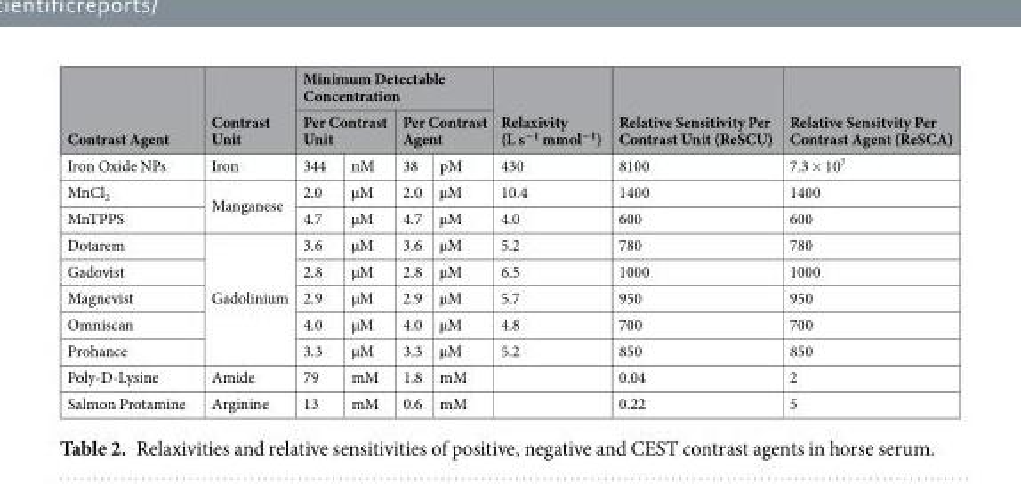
<table><thead><tr><td rowspan="3">Contrast Agent Iron Oxide NPs</td><td rowspan="3">Contrast Unit Iron</td><td colspan="4">Minimum Detectable Concentration</td><td rowspan="3">Relaxivity (L s<sup>−1</sup> mmol<sup>−1</sup>) 430</td><td rowspan="3">Relative Sensitivity Per Contrast Unit (ReSCU) 8100</td><td rowspan="3">Relative Sensitvity Per Contrast Agent (ReSCA) 7.3 × 10<sup>7</sup></td></tr><tr><td colspan="2">Per Contrast Unit</td><td colspan="2">Per Contrast Agent</td></tr><tr><td>344</td><td>nM</td><td>38</td><td>pM</td></tr></thead><tbody><tr><td>MnCl<sub>2</sub></td><td rowspan="2">Manganese</td><td>2.0</td><td>µM</td><td>2.0</td><td>µM</td><td>10.4</td><td>1400</td><td>1400</td></tr><tr><td>MnTPPS</td><td>4.7</td><td>µM</td><td>4.7</td><td>µM</td><td>4.0</td><td>600</td><td>600</td></tr><tr><td>Dotarem</td><td rowspan="5">Gadolinium</td><td>3.6</td><td>µM</td><td>3.6</td><td>µM</td><td>5.2</td><td>780</td><td>780</td></tr><tr><td>Gadovist</td><td>2.8</td><td>µM</td><td>2.8</td><td>µM</td><td>6.5</td><td>1000</td><td>1000</td></tr><tr><td>Magnevist</td><td>2.9</td><td>µM</td><td>2.9</td><td>µM</td><td>5.7</td><td>950</td><td>950</td></tr><tr><td>Omniscan</td><td>4.0</td><td>µM</td><td>4.0</td><td>µM</td><td>4.8</td><td>700</td><td>700</td></tr><tr><td>Prohance</td><td>3.3</td><td>µM</td><td>3.3</td><td>µM</td><td>5.2</td><td>850</td><td>850</td></tr><tr><td>Poly-D-Lysine</td><td>Amide</td><td>79</td><td>mM</td><td>1.8</td><td>mM</td><td></td><td>0.04</td><td>2</td></tr><tr><td>Salmon Protamine</td><td>Arginine</td><td>13</td><td>mM</td><td>0.6</td><td>mM</td><td></td><td>0.22</td><td>5</td></tr></tbody></table>